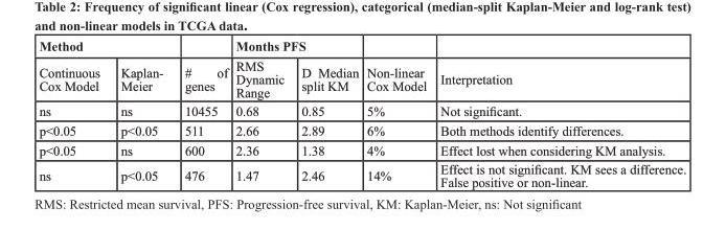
<table><thead><tr><td colspan="2">Method</td><td rowspan="2"># of genes</td><td colspan="2">Months PFS</td><td rowspan="2">Non-linear Cox Model</td><td rowspan="2">Interpretation</td></tr><tr><td>Continuous Cox Model</td><td>Kaplan- Meier</td><td>RMS Dynamic Range</td><td>D Median split KM</td></tr></thead><tbody><tr><td>ns</td><td>ns</td><td>10455</td><td>0.68</td><td>0.85</td><td>5%</td><td>Not significant.</td></tr><tr><td>p&lt;0.05</td><td>p&lt;0.05</td><td>511</td><td>2.66</td><td>2.89</td><td>6%</td><td>Both methods identify differences.</td></tr><tr><td>p&lt;0.05</td><td>ns</td><td>600</td><td>2.36</td><td>1.38</td><td>4%</td><td>Effect lost when considering KM analysis.</td></tr><tr><td>ns</td><td>p&lt;0.05</td><td>476</td><td>1.47</td><td>2.46</td><td>14%</td><td>Effect is not significant. KM sees a difference. False positive or non-linear.</td></tr></tbody></table>